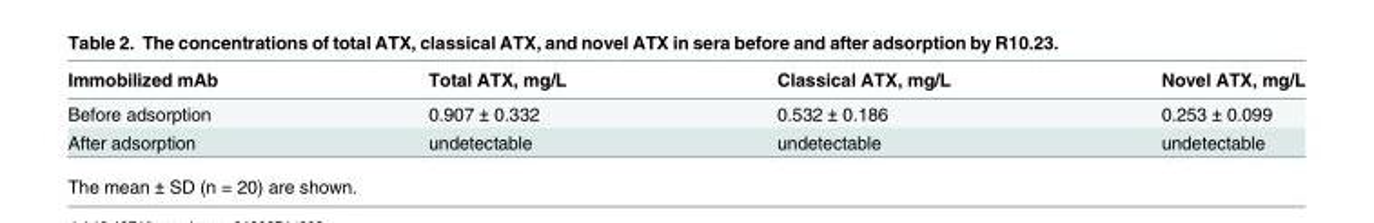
<table><thead><tr><td>Immobilized mAb</td><td>Total ATX, mg/L</td><td>Classical ATX, mg/L</td><td>Novel ATX, mg/L</td></tr></thead><tbody><tr><td>Before adsorption</td><td>0.907 ± 0.332</td><td>0.532 ± 0.186</td><td>0.253 ± 0.099</td></tr><tr><td>After adsorption</td><td>undetectable</td><td>undetectable</td><td>undetectable</td></tr></tbody></table>